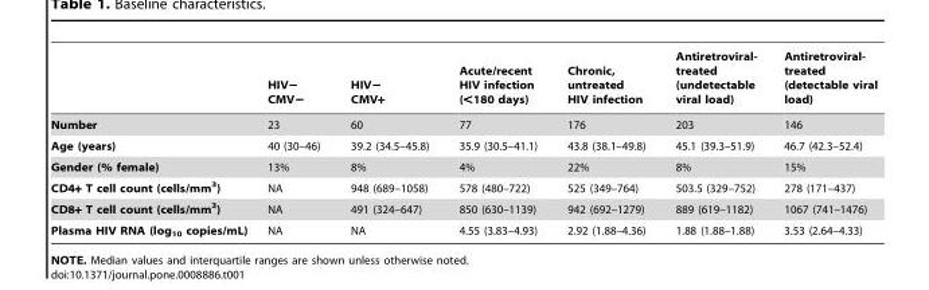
<table><thead><tr><td></td><td>HIV− CMV−</td><td>HIV− CMV+</td><td>Acute/recent HIV infection (&lt;180 days)</td><td>Chronic, untreated HIV infection</td><td>Antiretroviral- treated (undetectable viral load)</td><td>Antiretroviral- treated (detectable viral load)</td></tr></thead><tbody><tr><td>Number</td><td>23</td><td>60</td><td>77</td><td>176</td><td>203</td><td>146</td></tr><tr><td>Age (years)</td><td>40 (30–46)</td><td>39.2 (34.5–45.8)</td><td>35.9 (30.5–41.1)</td><td>43.8 (38.1–49.8)</td><td>45.1 (39.3–51.9)</td><td>46.7 (42.3–52.4)</td></tr><tr><td>Gender (% female)</td><td>13%</td><td>8%</td><td>4%</td><td>22%</td><td>8%</td><td>15%</td></tr><tr><td>CD4+ T cell count (cells/mm<sup>3</sup>)</td><td>NA</td><td>948 (689–1058)</td><td>578 (480–722)</td><td>525 (349–764)</td><td>503.5 (329–752)</td><td>278 (171–437)</td></tr><tr><td>CD8+ T cell count (cells/mm<sup>3</sup>)</td><td>NA</td><td>491 (324–647)</td><td>850 (630–1139)</td><td>942 (692–1279)</td><td>889 (619–1182)</td><td>1067 (741–1476)</td></tr><tr><td>Plasma HIV RNA (log<sub>10</sub> copies/mL)</td><td>NA</td><td>NA</td><td>4.55 (3.83–4.93)</td><td>2.92 (1.88–4.36)</td><td>1.88 (1.88–1.88)</td><td>3.53 (2.64–4.33)</td></tr></tbody></table>